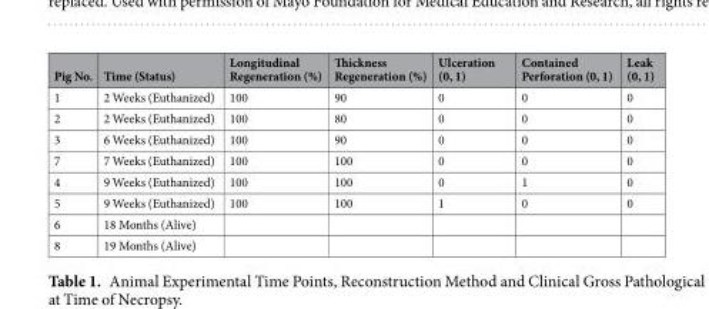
<table><thead><tr><td>Pig No.</td><td>Time (Status)</td><td>Longitudinal Regeneration (%)</td><td>Thickness Regeneration (%)</td><td>Ulceration (0, 1)</td><td>Contained Perforation (0, 1)</td><td>Leak (0, 1)</td></tr></thead><tbody><tr><td>1</td><td>2 Weeks (Euthanized)</td><td>100</td><td>90</td><td>0</td><td>0</td><td>0</td></tr><tr><td>2</td><td>2 Weeks (Euthanized)</td><td>100</td><td>80</td><td>0</td><td>0</td><td>0</td></tr><tr><td>3</td><td>6 Weeks (Euthanized)</td><td>100</td><td>90</td><td>0</td><td>0</td><td>0</td></tr><tr><td>7</td><td>7 Weeks (Euthanized)</td><td>100</td><td>100</td><td>0</td><td>0</td><td>0</td></tr><tr><td>4</td><td>9 Weeks (Euthanized)</td><td>100</td><td>100</td><td>0</td><td>1</td><td>0</td></tr><tr><td>5</td><td>9 Weeks (Euthanized)</td><td>100</td><td>100</td><td>1</td><td>0</td><td>0</td></tr><tr><td>6</td><td>18 Months (Alive)</td><td></td><td></td><td></td><td></td><td></td></tr><tr><td>8</td><td>19 Months (Alive)</td><td></td><td></td><td></td><td></td><td></td></tr></tbody></table>